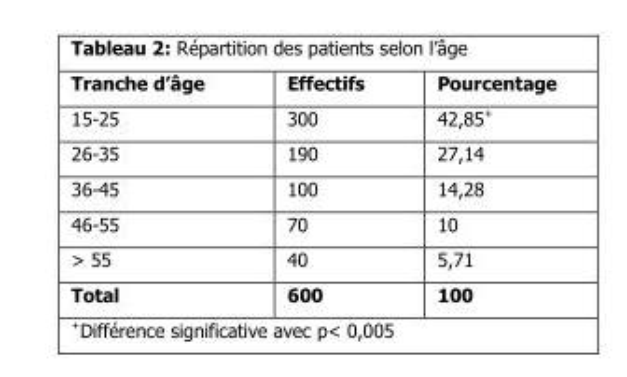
<table><thead><tr><td>Tranche d’âge</td><td>Effectifs</td><td>Pourcentage</td></tr></thead><tbody><tr><td>15-25</td><td>300</td><td>42,85+</td></tr><tr><td>26-35</td><td>190</td><td>27,14</td></tr><tr><td>36-45</td><td>100</td><td>14,28</td></tr><tr><td>46-55</td><td>70</td><td>10</td></tr><tr><td>&gt; 55</td><td>40</td><td>5,71</td></tr><tr><td>Total</td><td>600</td><td>100</td></tr></tbody></table>